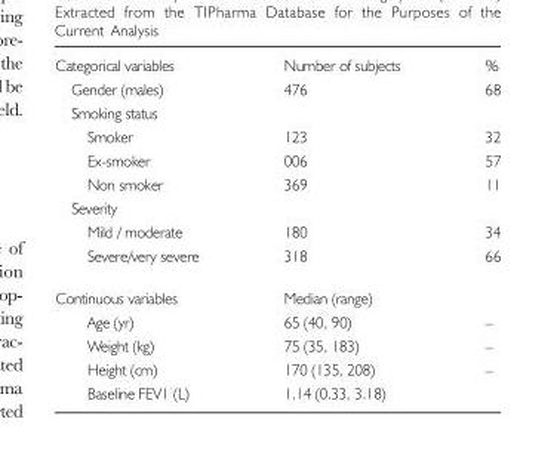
<table><tbody><tr><td>Categorical variables</td><td>Number of subjects</td><td>%</td></tr><tr><td>Gender (males)</td><td>476</td><td>68</td></tr><tr><td colspan="3">Smoking status</td></tr><tr><td>Smoker</td><td>123</td><td>32</td></tr><tr><td>Ex-smoker</td><td>006</td><td>57</td></tr><tr><td>Non smoker</td><td>369</td><td>11</td></tr><tr><td colspan="3">Severity</td></tr><tr><td>Mild / moderate</td><td>180</td><td>34</td></tr><tr><td>Severe/very severe</td><td>318</td><td>66</td></tr><tr><td>Continuous variables</td><td>Median (range)</td><td></td></tr><tr><td>Age (yr)</td><td>65 (40, 90)</td><td>–</td></tr><tr><td>Weight (kg)</td><td>75 (35, 183)</td><td>–</td></tr><tr><td>Height (cm)</td><td>170 (135, 208)</td><td>–</td></tr><tr><td>Baseline FEV1 (L)</td><td>1.14 (0.33, 3.18)</td><td></td></tr></tbody></table>